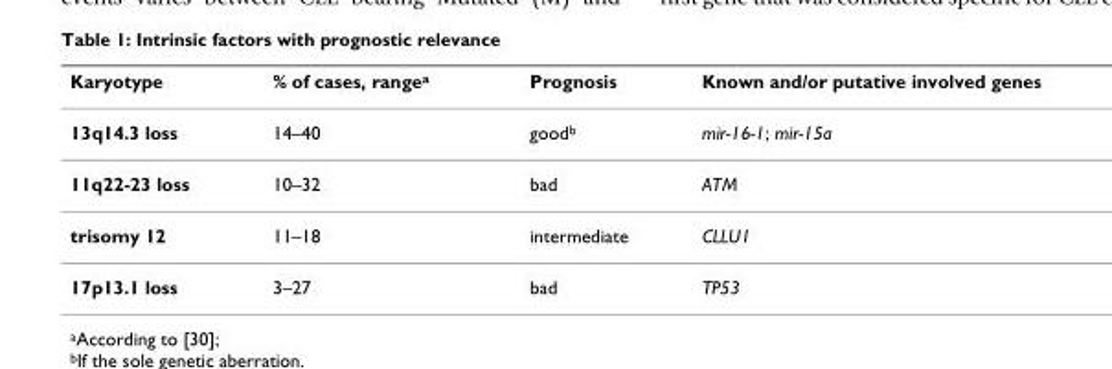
<table><thead><tr><td>Karyotype</td><td>% of cases, range<sup>a</sup></td><td>Prognosis</td><td>Known and/or putative involved genes</td></tr></thead><tbody><tr><td>13q14.3 loss</td><td>14–40</td><td>good<sup>b</sup></td><td>mir-16-1; mir-15a</td></tr><tr><td>11q22-23 loss</td><td>10–32</td><td>bad</td><td>ATM</td></tr><tr><td>trisomy 12</td><td>11–18</td><td>intermediate</td><td>CLLU1</td></tr><tr><td>17p13.1 loss</td><td>3–27</td><td>bad</td><td>TP53</td></tr></tbody></table>